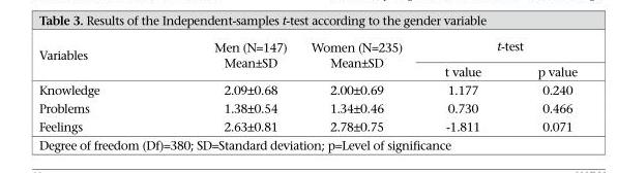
<table><thead><tr><td rowspan="2">Variables</td><td rowspan="2">Men (N=147) Mean±SD</td><td rowspan="2">Women (N=235) Mean±SD</td><td colspan="2">t-test</td></tr><tr><td>t value</td><td>p value</td></tr></thead><tbody><tr><td>Knowledge</td><td>2.09±0.68</td><td>2.00±0.69</td><td>1.177</td><td>0.240</td></tr><tr><td>Problems</td><td>1.38±0.54</td><td>1.34±0.46</td><td>0.730</td><td>0.466</td></tr><tr><td>Feelings</td><td>2.63±0.81</td><td>2.78±0.75</td><td>-1.811</td><td>0.071</td></tr></tbody></table>